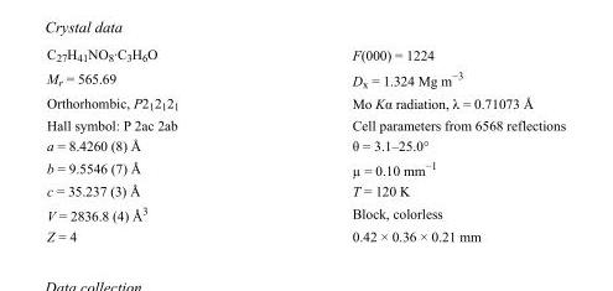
<table><tbody><tr><td>C<sub>27</sub>H<sub>41</sub>NO<sub>8</sub>·C<sub>3</sub>H<sub>6</sub>O</td><td>F(000) = 1224</td></tr><tr><td>M<sub>r</sub> = 565.69</td><td>D<sub>x</sub> = 1.324 Mg m<sup>−3</sup></td></tr><tr><td>Orthorhombic, P2<sub>1</sub>2<sub>1</sub>2<sub>1</sub></td><td>Mo Kα radiation, λ = 0.71073 Å</td></tr><tr><td>Hall symbol: P 2ac 2ab</td><td>Cell parameters from 6568 reflections</td></tr><tr><td>a = 8.4260 (8) Å</td><td>θ = 3.1–25.0°</td></tr><tr><td>b = 9.5546 (7) Å</td><td>µ = 0.10 mm<sup>−1</sup></td></tr><tr><td>c = 35.237 (3) Å</td><td>T = 120 K</td></tr><tr><td>V = 2836.8 (4) Å<sup>3</sup></td><td>Block, colorless</td></tr><tr><td>Z = 4</td><td>0.42 × 0.36 × 0.21 mm</td></tr></tbody></table>